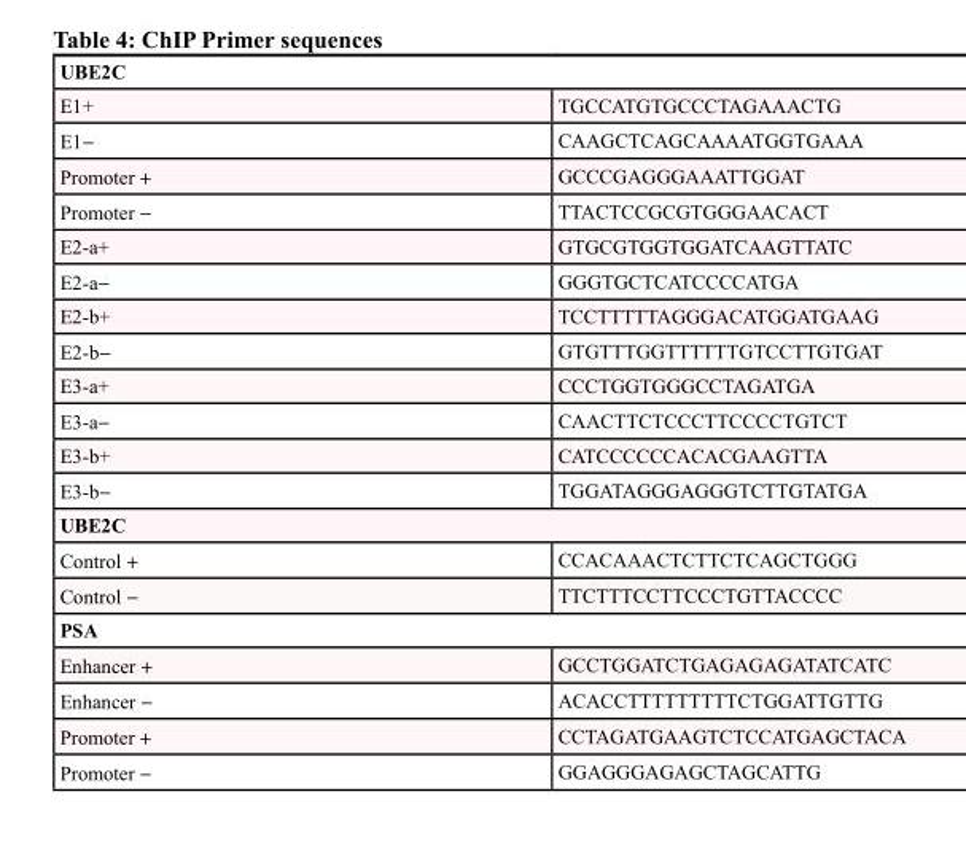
<table><tbody><tr><td colspan="2">UBE2C</td></tr><tr><td>E1+</td><td>TGCCATGTGCCCTAGAAACTG</td></tr><tr><td>E1−</td><td>CAAGCTCAGCAAAATGGTGAAA</td></tr><tr><td>Promoter +</td><td>GCCCGAGGGAAATTGGAT</td></tr><tr><td>Promoter −</td><td>TTACTCCGCGTGGGAACACT</td></tr><tr><td>E2-a+</td><td>GTGCGTGGTGGATCAAGTTATC</td></tr><tr><td>E2-a−</td><td>GGGTGCTCATCCCCATGA</td></tr><tr><td>E2-b+</td><td>TCCTTTTTAGGGACATGGATGAAG</td></tr><tr><td>E2-b−</td><td>GTGTTTGGTTTTTTGTCCTTGTGAT</td></tr><tr><td>E3-a+</td><td>CCCTGGTGGGCCTAGATGA</td></tr><tr><td>E3-a−</td><td>CAACTTCTCCCTTCCCCTGTCT</td></tr><tr><td>E3-b+</td><td>CATCCCCCCACACGAAGTTA</td></tr><tr><td>E3-b−</td><td>TGGATAGGGAGGGTCTTGTATGA</td></tr><tr><td colspan="2">UBE2C</td></tr><tr><td>Control +</td><td>CCACAAACTCTTCTCAGCTGGG</td></tr><tr><td>Control −</td><td>TTCTTTCCTTCCCTGTTACCCC</td></tr><tr><td colspan="2">PSA</td></tr><tr><td>Enhancer +</td><td>GCCTGGATCTGAGAGAGATATCATC</td></tr><tr><td>Enhancer −</td><td>ACACCTTTTTTTTTCTGGATTGTTG</td></tr><tr><td>Promoter +</td><td>CCTAGATGAAGTCTCCATGAGCTACA</td></tr><tr><td>Promoter −</td><td>GGAGGGAGAGCTAGCATTG</td></tr></tbody></table>